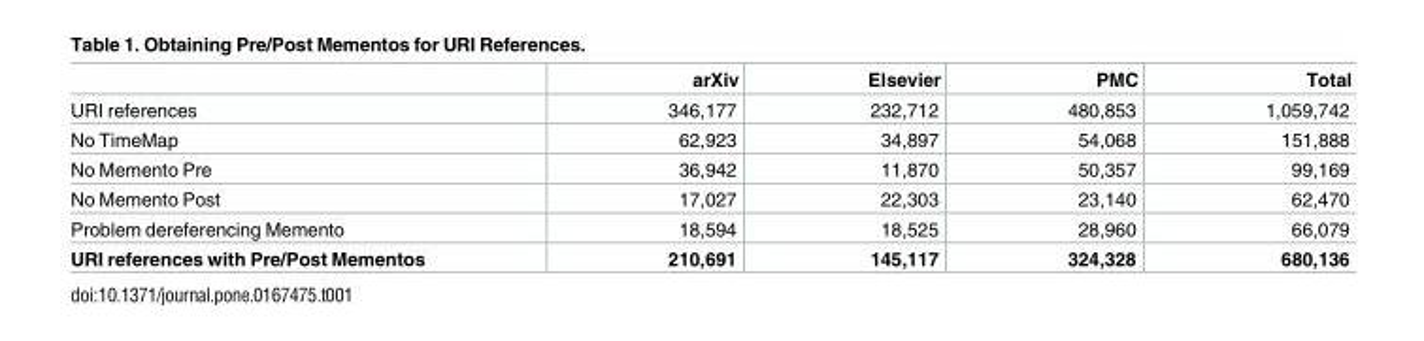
<table><thead><tr><td></td><td>arXiv</td><td>Elsevier</td><td>PMC</td><td>Total</td></tr></thead><tbody><tr><td>URI references</td><td>346,177</td><td>232,712</td><td>480,853</td><td>1,059,742</td></tr><tr><td>No TimeMap</td><td>62,923</td><td>34,897</td><td>54,068</td><td>151,888</td></tr><tr><td>No Memento Pre</td><td>36,942</td><td>11,870</td><td>50,357</td><td>99,169</td></tr><tr><td>No Memento Post</td><td>17,027</td><td>22,303</td><td>23,140</td><td>62,470</td></tr><tr><td>Problem dereferencing Memento</td><td>18,594</td><td>18,525</td><td>28,960</td><td>66,079</td></tr><tr><td>URI references with Pre/Post Mementos</td><td>210,691</td><td>145,117</td><td>324,328</td><td>680,136</td></tr></tbody></table>